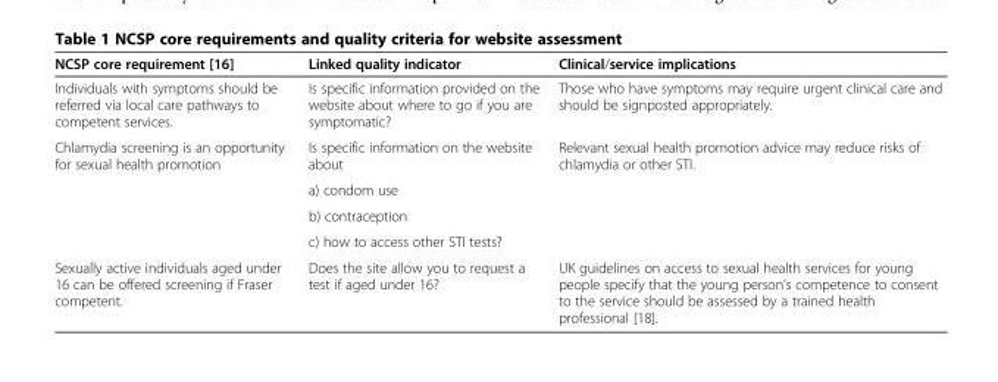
<table><thead><tr><td>NCSP core requirement [16]</td><td>Linked quality indicator</td><td>Clinical/service implications</td></tr></thead><tbody><tr><td>Individuals with symptoms should be referred via local care pathways to competent services.</td><td>Is specific information provided on the website about where to go if you are symptomatic?</td><td>Those who have symptoms may require urgent clinical care and should be signposted appropriately.</td></tr><tr><td rowspan="4">Chlamydia screening is an opportunity for sexual health promotion</td><td>Is specific information on the website about</td><td rowspan="4">Relevant sexual health promotion advice may reduce risks of chlamydia or other STI.</td></tr><tr><td>a) condom use</td></tr><tr><td>b) contraception</td></tr><tr><td>c) how to access other STI tests?</td></tr><tr><td>Sexually active individuals aged under 16 can be offered screening if Fraser competent.</td><td>Does the site allow you to request a test if aged under 16?</td><td>UK guidelines on access to sexual health services for young people specify that the young person’s competence to consent to the service should be assessed by a trained health professional [18].</td></tr></tbody></table>